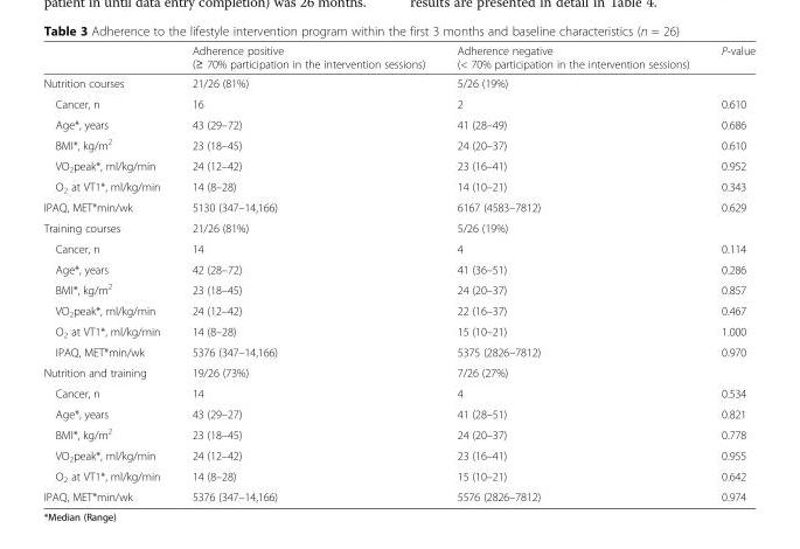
<table><thead><tr><td></td><td>Adherence positive (≥ 70% participation in the intervention sessions)</td><td>Adherence negative (&lt; 70% participation in the intervention sessions)</td><td>P-value</td></tr></thead><tbody><tr><td>Nutrition courses</td><td>21/26 (81%)</td><td>5/26 (19%)</td><td></td></tr><tr><td>Cancer, n</td><td>16</td><td>2</td><td>0.610</td></tr><tr><td>Age*, years</td><td>43 (29–72)</td><td>41 (28–49)</td><td>0.686</td></tr><tr><td>BMI*, kg/m<sup>2</sup></td><td>23 (18–45)</td><td>24 (20–37)</td><td>0.610</td></tr><tr><td>VO<sub>2</sub>peak*, ml/kg/min</td><td>24 (12–42)</td><td>23 (16–41)</td><td>0.952</td></tr><tr><td>O<sub>2</sub> at VT1*, ml/kg/min</td><td>14 (8–28)</td><td>14 (10–21)</td><td>0.343</td></tr><tr><td>IPAQ, MET*min/wk</td><td>5130 (347–14,166)</td><td>6167 (4583–7812)</td><td>0.629</td></tr><tr><td>Training courses</td><td>21/26 (81%)</td><td>5/26 (19%)</td><td></td></tr><tr><td>Cancer, n</td><td>14</td><td>4</td><td>0.114</td></tr><tr><td>Age*, years</td><td>42 (28–72)</td><td>41 (36–51)</td><td>0.286</td></tr><tr><td>BMI*, kg/m<sup>2</sup></td><td>23 (18–45)</td><td>24 (20–37)</td><td>0.857</td></tr><tr><td>VO<sub>2</sub>peak*, ml/kg/min</td><td>24 (12–42)</td><td>22 (16–37)</td><td>0.467</td></tr><tr><td>O<sub>2</sub> at VT1*, ml/kg/min</td><td>14 (8–28)</td><td>15 (10–21)</td><td>1.000</td></tr><tr><td>IPAQ, MET*min/wk</td><td>5376 (347–14,166)</td><td>5375 (2826–7812)</td><td>0.970</td></tr><tr><td>Nutrition and training</td><td>19/26 (73%)</td><td>7/26 (27%)</td><td></td></tr><tr><td>Cancer, n</td><td>14</td><td>4</td><td>0.534</td></tr><tr><td>Age*, years</td><td>43 (29–27)</td><td>41 (28–51)</td><td>0.821</td></tr><tr><td>BMI*, kg/m<sup>2</sup></td><td>23 (18–45)</td><td>24 (20–37)</td><td>0.778</td></tr><tr><td>VO<sub>2</sub>peak*, ml/kg/min</td><td>24 (12–42)</td><td>23 (16–41)</td><td>0.955</td></tr><tr><td>O<sub>2</sub> at VT1*, ml/kg/min</td><td>14 (8–28)</td><td>15 (10–21)</td><td>0.642</td></tr><tr><td>IPAQ, MET*min/wk</td><td>5376 (347–14,166)</td><td>5576 (2826–7812)</td><td>0.974</td></tr></tbody></table>